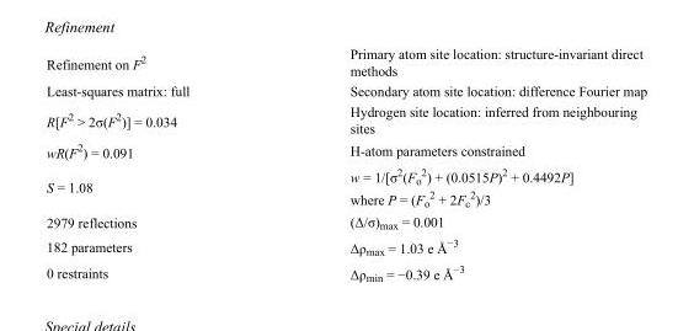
<table><tbody><tr><td>Refinement on F<sup>2</sup></td><td>Primary atom site location: structure-invariant direct methods</td></tr><tr><td>Least-squares matrix: full</td><td>Secondary atom site location: difference Fourier map</td></tr><tr><td>R[F<sup>2</sup> &gt; 2σ(F<sup>2</sup>)] = 0.034</td><td>Hydrogen site location: inferred from neighbouring sites</td></tr><tr><td>wR(F<sup>2</sup>) = 0.091</td><td>H-atom parameters constrained</td></tr><tr><td>S = 1.08</td><td>w = 1/[σ<sup>2</sup>(F<sub>o</sub> <sup>2</sup>) + (0.0515P)<sup>2</sup> + 0.4492P] where P = (F<sub>o</sub> <sup>2</sup> + 2F<sub>c</sub> <sup>2</sup>)/3</td></tr><tr><td>2979 reflections</td><td>(Δ/σ)<sub>max</sub> = 0.001</td></tr><tr><td>182 parameters</td><td>Δρ<sub>max</sub> = 1.03 e Å<sup>−3</sup></td></tr><tr><td>0 restraints</td><td>Δρ<sub>min</sub> = −0.39 e Å<sup>−3</sup></td></tr></tbody></table>